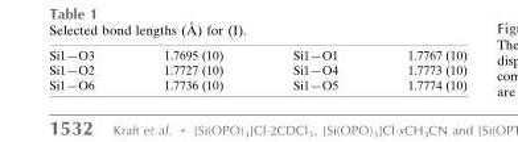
<table><tbody><tr><td>Si1—O3</td><td>1.7695 (10)</td><td>Si1—O1</td><td>1.7767 (10)</td></tr><tr><td>Si1—O2</td><td>1.7727 (10)</td><td>Si1—O4</td><td>1.7773 (10)</td></tr><tr><td>Si1—O6</td><td>1.7736 (10)</td><td>Si1—O5</td><td>1.7774 (10)</td></tr></tbody></table>